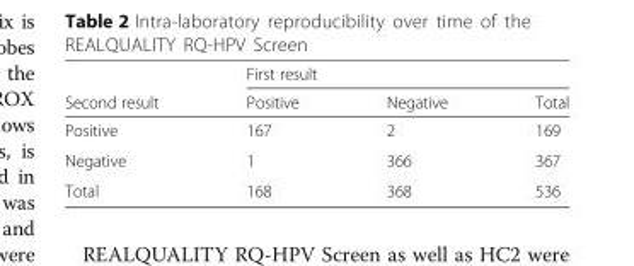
<table><thead><tr><td rowspan="2">Second result</td><td colspan="3">First result</td></tr><tr><td>Positive</td><td>Negative</td><td>Total</td></tr></thead><tbody><tr><td>Positive</td><td>167</td><td>2</td><td>169</td></tr><tr><td>Negative</td><td>1</td><td>366</td><td>367</td></tr><tr><td>Total</td><td>168</td><td>368</td><td>536</td></tr></tbody></table>